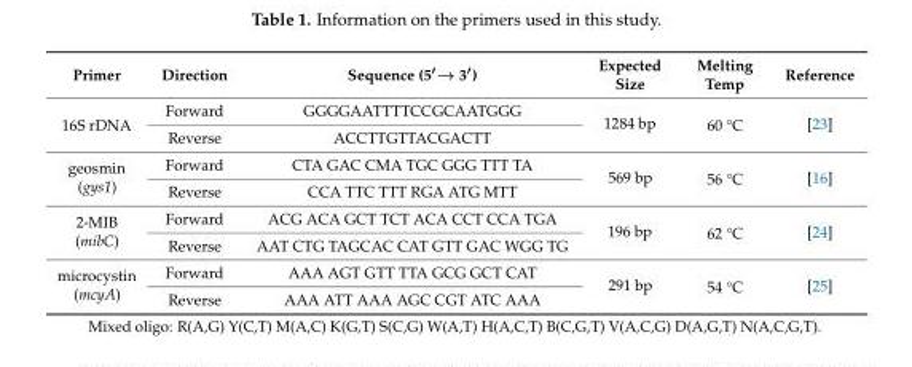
<table><thead><tr><td>Primer</td><td>Direction</td><td>Sequence (5′→ 3′)</td><td>Expected Size</td><td>Melting Temp</td><td>Reference</td></tr></thead><tbody><tr><td rowspan="2">16S rDNA</td><td>Forward</td><td>GGGGAATTTTCCGCAATGGG</td><td rowspan="2">1284 bp</td><td rowspan="2">60 °C</td><td rowspan="2">[23]</td></tr><tr><td>Reverse</td><td>ACCTTGTTACGACTT</td></tr><tr><td rowspan="2">geosmin (gys1)</td><td>Forward</td><td>CTA GAC CMA TGC GGG TTT TA</td><td rowspan="2">569 bp</td><td rowspan="2">56 °C</td><td rowspan="2">[16]</td></tr><tr><td>Reverse</td><td>CCA TTC TTT RGA ATG MTT</td></tr><tr><td rowspan="2">2-MIB (mibC)</td><td>Forward</td><td>ACG ACA GCT TCT ACA CCT CCA TGA</td><td rowspan="2">196 bp</td><td rowspan="2">62 °C</td><td rowspan="2">[24]</td></tr><tr><td>Reverse</td><td>AAT CTG TAGCAC CAT GTT GAC WGG TG</td></tr><tr><td rowspan="2">microcystin (mcyA)</td><td>Forward</td><td>AAA AGT GTT TTA GCG GCT CAT</td><td rowspan="2">291 bp</td><td rowspan="2">54 °C</td><td rowspan="2">[25]</td></tr><tr><td>Reverse</td><td>AAA ATT AAA AGC CGT ATC AAA</td></tr></tbody></table>